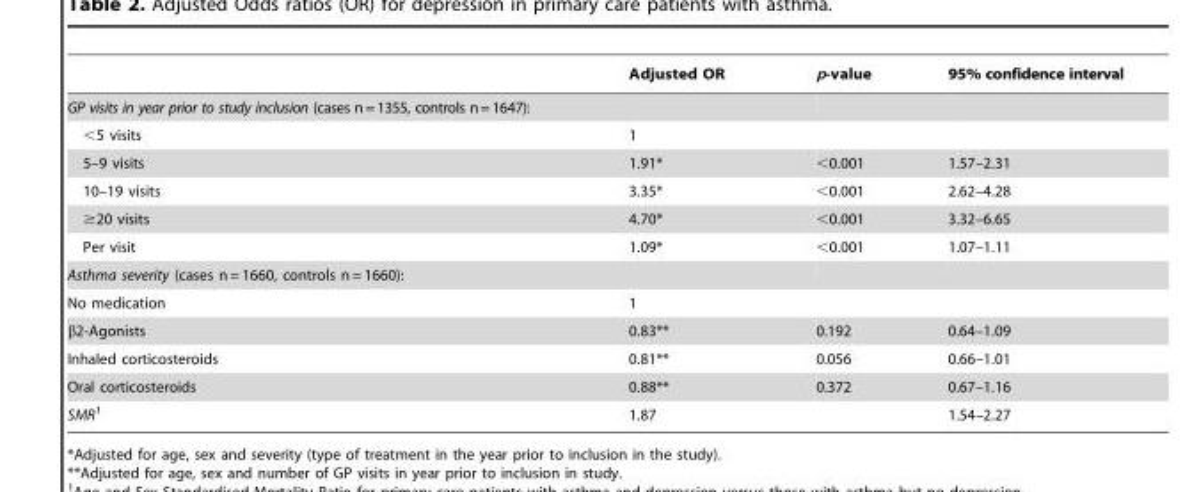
<table><thead><tr><td></td><td>Adjusted OR</td><td>p-value</td><td>95% confidence interval</td></tr></thead><tbody><tr><td colspan="4">GP visits in year prior to study inclusion (cases n=1355, controls n=1647):</td></tr><tr><td>&lt;5 visits</td><td>1</td><td></td><td></td></tr><tr><td>5–9 visits</td><td>1.91*</td><td>&lt;0.001</td><td>1.57–2.31</td></tr><tr><td>10–19 visits</td><td>3.35*</td><td>&lt;0.001</td><td>2.62–4.28</td></tr><tr><td>≥20 visits</td><td>4.70*</td><td>&lt;0.001</td><td>3.32–6.65</td></tr><tr><td>Per visit</td><td>1.09*</td><td>&lt;0.001</td><td>1.07–1.11</td></tr><tr><td colspan="4">Asthma severity (cases n = 1660, controls n = 1660):</td></tr><tr><td>No medication</td><td>1</td><td></td><td></td></tr><tr><td>β2-Agonists</td><td>0.83**</td><td>0.192</td><td>0.64–1.09</td></tr><tr><td>Inhaled corticosteroids</td><td>0.81**</td><td>0.056</td><td>0.66–1.01</td></tr><tr><td>Oral corticosteroids</td><td>0.88**</td><td>0.372</td><td>0.67–1.16</td></tr><tr><td>SMR1</td><td>1.87</td><td></td><td>1.54–2.27</td></tr></tbody></table>